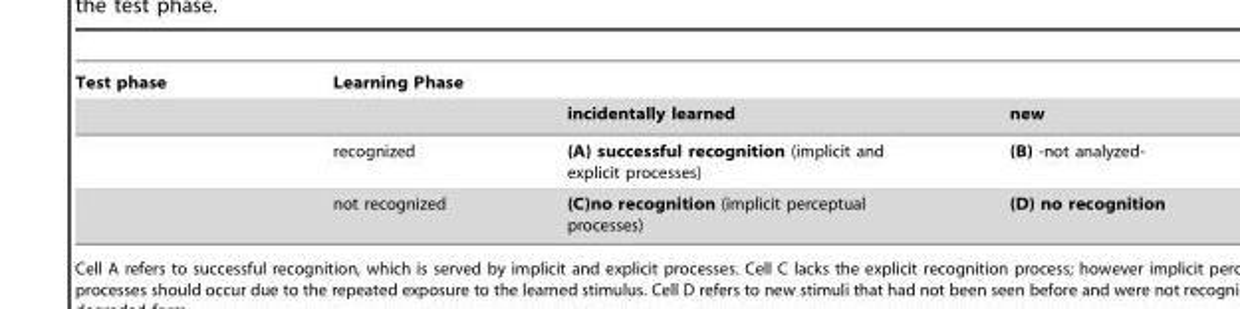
<table><thead><tr><td rowspan="2">Test phase</td><td rowspan="2">Learning Phase</td><td rowspan="2">incidentally learned</td><td rowspan="2">new</td></tr><tr></tr></thead><tbody><tr><td></td><td>recognized</td><td>(A) successful recognition (implicit and explicit processes)</td><td>(B) -not analyzed-</td></tr><tr><td></td><td>not recognized</td><td>(C)no recognition (implicit perceptual processes)</td><td>(D) no recognition</td></tr></tbody></table>